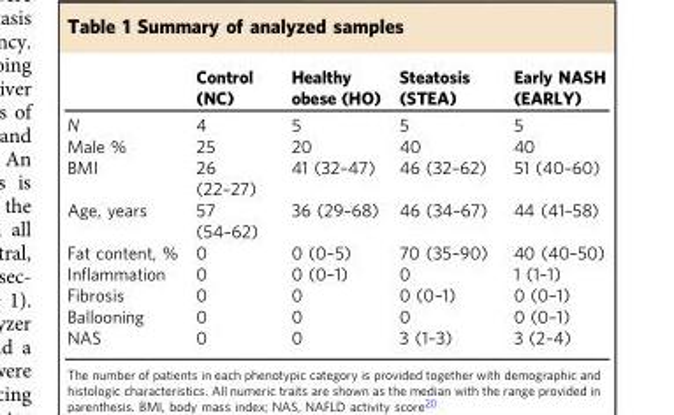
<table><thead><tr><td></td><td>Control (NC)</td><td>Healthy obese (HO)</td><td>Steatosis (STEA)</td><td>Early NASH (EARLY)</td></tr></thead><tbody><tr><td>N</td><td>4</td><td>5</td><td>5</td><td>5</td></tr><tr><td>Male %</td><td>25</td><td>20</td><td>40</td><td>40</td></tr><tr><td>BMI</td><td>26 (22–27)</td><td>41 (32–47)</td><td>46 (32–62)</td><td>51 (40–60)</td></tr><tr><td>Age, years</td><td>57 (54–62)</td><td>36 (29–68)</td><td>46 (34–67)</td><td>44 (41–58)</td></tr><tr><td>Fat content, %</td><td>0</td><td>0 (0–5)</td><td>70 (35–90)</td><td>40 (40–50)</td></tr><tr><td>Inflammation</td><td>0</td><td>0 (0–1)</td><td>0</td><td>1 (1–1)</td></tr><tr><td>Fibrosis</td><td>0</td><td>0</td><td>0 (0–1)</td><td>0 (0–1)</td></tr><tr><td>Ballooning</td><td>0</td><td>0</td><td>0</td><td>0 (0–1)</td></tr><tr><td>NAS</td><td>0</td><td>0</td><td>3 (1–3)</td><td>3 (2–4)</td></tr></tbody></table>